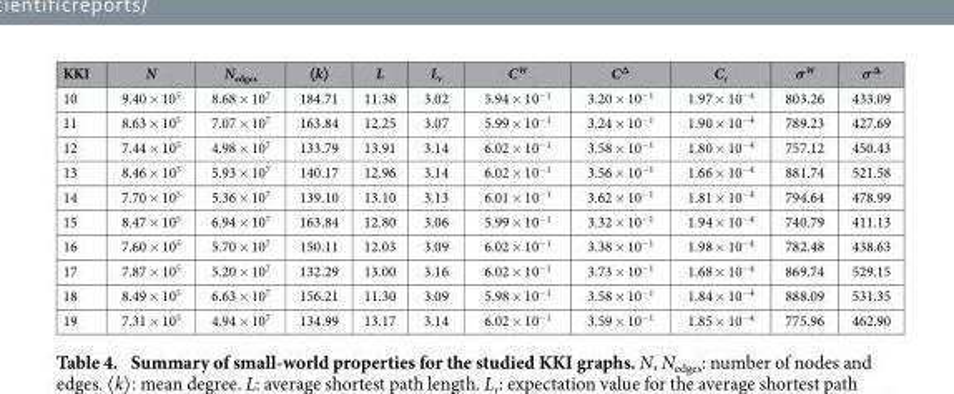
<table><thead><tr><td>KKI</td><td>N</td><td>N<sub>edges</sub></td><td>〈k〉</td><td>L</td><td>L<sub>r</sub></td><td>C<sup>W</sup></td><td>C<sup>Δ</sup></td><td>C<sub>r</sub></td><td>σ<sup>W</sup></td><td>σ<sup>Δ</sup></td></tr></thead><tbody><tr><td>10</td><td>9.40 × 10<sup>5</sup></td><td>8.68 × 10<sup>7</sup></td><td>184.71</td><td>11.38</td><td>3.02</td><td>5.94 × 10<sup>−1</sup></td><td>3.20 × 10<sup>−1</sup></td><td>1.97 × 10<sup>−4</sup></td><td>803.26</td><td>433.09</td></tr><tr><td>11</td><td>8.63 × 10<sup>5</sup></td><td>7.07 × 10<sup>7</sup></td><td>163.84</td><td>12.25</td><td>3.07</td><td>5.99 × 10<sup>−1</sup></td><td>3.24 × 10<sup>−1</sup></td><td>1.90 × 10<sup>−4</sup></td><td>789.23</td><td>427.69</td></tr><tr><td>12</td><td>7.44 × 10<sup>5</sup></td><td>4.98 × 10<sup>7</sup></td><td>133.79</td><td>13.91</td><td>3.14</td><td>6.02 × 10<sup>−1</sup></td><td>3.58 × 10<sup>−1</sup></td><td>1.80 × 10<sup>−4</sup></td><td>757.12</td><td>450.43</td></tr><tr><td>13</td><td>8.46 × 10<sup>5</sup></td><td>5.93 × 10<sup>7</sup></td><td>140.17</td><td>12.96</td><td>3.14</td><td>6.02 × 10<sup>−1</sup></td><td>3.56 × 10<sup>−1</sup></td><td>1.66 × 10<sup>−4</sup></td><td>881.74</td><td>521.58</td></tr><tr><td>14</td><td>7.70 × 10<sup>5</sup></td><td>5.36 × 10<sup>7</sup></td><td>139.10</td><td>13.10</td><td>3.13</td><td>6.01 × 10<sup>−1</sup></td><td>3.62 × 10<sup>−1</sup></td><td>1.81 × 10<sup>−4</sup></td><td>794.64</td><td>478.99</td></tr><tr><td>15</td><td>8.47 × 10<sup>5</sup></td><td>6.94 × 10<sup>7</sup></td><td>163.84</td><td>12.80</td><td>3.06</td><td>5.99 × 10<sup>−1</sup></td><td>3.32 × 10<sup>−1</sup></td><td>1.94 × 10<sup>−4</sup></td><td>740.79</td><td>411.13</td></tr><tr><td>16</td><td>7.60 × 10<sup>5</sup></td><td>5.70 × 10<sup>7</sup></td><td>150.11</td><td>12.03</td><td>3.09</td><td>6.02 × 10<sup>−1</sup></td><td>3.38 × 10<sup>−1</sup></td><td>1.98 × 10<sup>−4</sup></td><td>782.48</td><td>438.63</td></tr><tr><td>17</td><td>7.87 × 10<sup>5</sup></td><td>5.20 × 10<sup>7</sup></td><td>132.29</td><td>13.00</td><td>3.16</td><td>6.02 × 10<sup>−1</sup></td><td>3.73 × 10<sup>−1</sup></td><td>1.68 × 10<sup>−4</sup></td><td>869.74</td><td>529.15</td></tr><tr><td>18</td><td>8.49 × 10<sup>5</sup></td><td>6.63 × 10<sup>7</sup></td><td>156.21</td><td>11.30</td><td>3.09</td><td>5.98 × 10<sup>−1</sup></td><td>3.58 × 10<sup>−1</sup></td><td>1.84 × 10<sup>−4</sup></td><td>888.09</td><td>531.35</td></tr><tr><td>19</td><td>7.31 × 10<sup>5</sup></td><td>4.94 × 10<sup>7</sup></td><td>134.99</td><td>13.17</td><td>3.14</td><td>6.02 × 10<sup>−1</sup></td><td>3.59 × 10<sup>−1</sup></td><td>1.85 × 10<sup>−4</sup></td><td>775.96</td><td>462.90</td></tr></tbody></table>